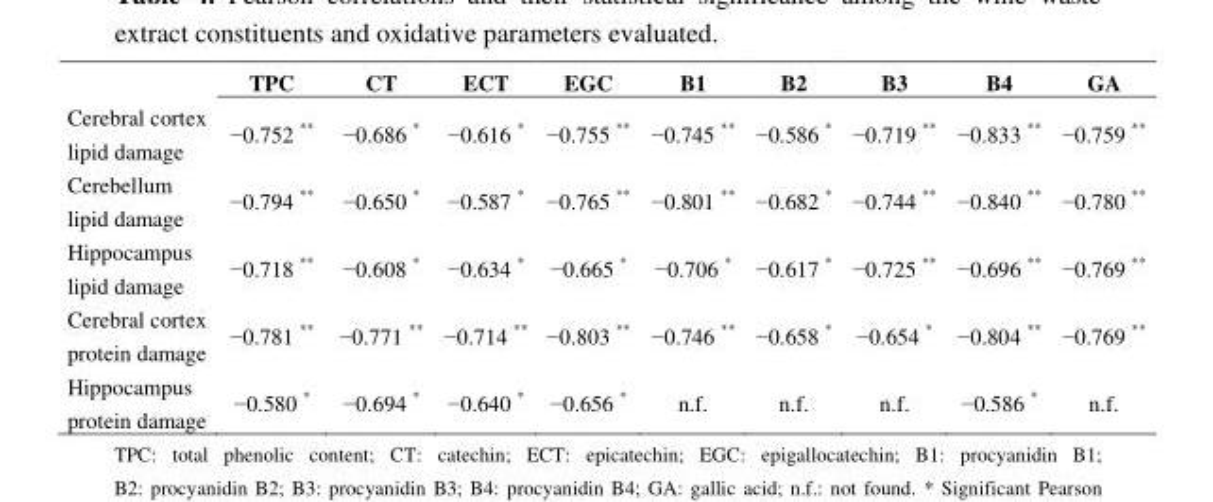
<table><thead><tr><td></td><td>TPC</td><td>CT</td><td>ECT</td><td>EGC</td><td>B1</td><td>B2</td><td>B3</td><td>B4</td><td>GA</td></tr></thead><tbody><tr><td>Cerebral cortex lipid damage</td><td>−0.752 **</td><td>−0.686 *</td><td>−0.616 *</td><td>−0.755 **</td><td>−0.745 **</td><td>−0.586 *</td><td>−0.719 **</td><td>−0.833 **</td><td>−0.759 **</td></tr><tr><td>Cerebellum lipid damage</td><td>−0.794 **</td><td>−0.650 *</td><td>−0.587 *</td><td>−0.765 **</td><td>−0.801 **</td><td>−0.682 *</td><td>−0.744 **</td><td>−0.840 **</td><td>−0.780 **</td></tr><tr><td>Hippocampus lipid damage</td><td>−0.718 **</td><td>−0.608 *</td><td>−0.634 *</td><td>−0.665 *</td><td>−0.706 *</td><td>−0.617 *</td><td>−0.725 **</td><td>−0.696 **</td><td>−0.769 **</td></tr><tr><td>Cerebral cortex protein damage</td><td>−0.781 **</td><td>−0.771 **</td><td>−0.714 **</td><td>−0.803 **</td><td>−0.746 **</td><td>−0.658 *</td><td>−0.654 *</td><td>−0.804 **</td><td>−0.769 **</td></tr><tr><td>Hippocampus protein damage</td><td>−0.580 *</td><td>−0.694 *</td><td>−0.640 *</td><td>−0.656 *</td><td>n.f.</td><td>n.f.</td><td>n.f.</td><td>−0.586 *</td><td>n.f.</td></tr></tbody></table>